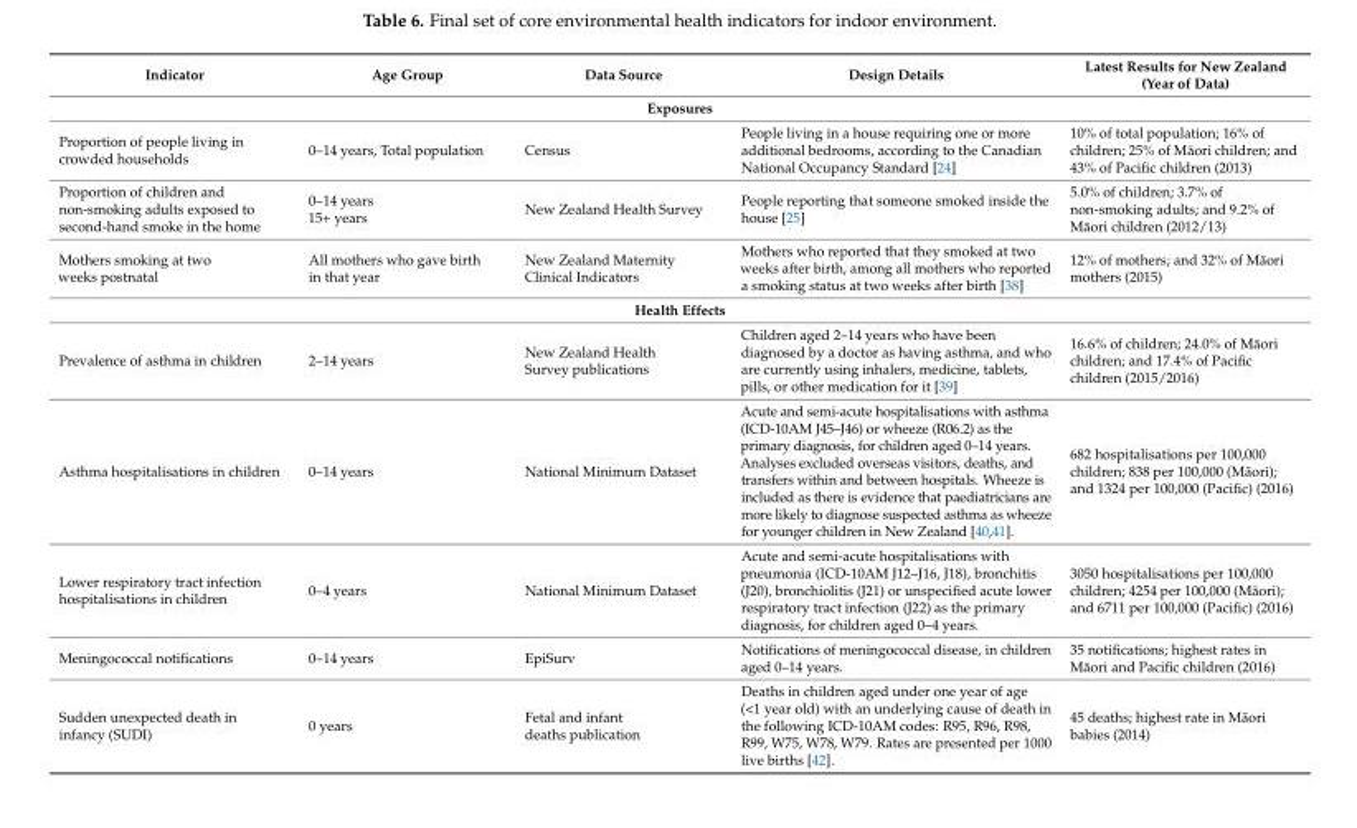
<table><thead><tr><td>Indicator</td><td>Age Group</td><td>Data Source</td><td>Design Details</td><td>Latest Results for New Zealand (Year of Data)</td></tr></thead><tbody><tr><td colspan="5">Exposures</td></tr><tr><td>Proportion of people living in crowded households</td><td>0–14 years, Total population</td><td>Census</td><td>People living in a house requiring one or more additional bedrooms, according to the Canadian National Occupancy Standard [24]</td><td>10% of total population; 16% of children; 25% of M¯aori children; and 43% of Pacific children (2013)</td></tr><tr><td>Proportion of children and non-smoking adults exposed to second-hand smoke in the home</td><td>0–14 years 15+ years</td><td>New Zealand Health Survey</td><td>People reporting that someone smoked inside the house [25]</td><td>5.0% of children; 3.7% of non-smoking adults; and 9.2% of M¯aori children (2012/13)</td></tr><tr><td>Mothers smoking at two weeks postnatal</td><td>All mothers who gave birth in that year</td><td>New Zealand Maternity Clinical Indicators</td><td>Mothers who reported that they smoked at two weeks after birth, among all mothers who reported a smoking status at two weeks after birth [38]</td><td>12% of mothers; and 32% of M¯aori mothers (2015)</td></tr><tr><td colspan="5">Health Effects</td></tr><tr><td>Prevalence of asthma in children</td><td>2–14 years</td><td>New Zealand Health Survey publications</td><td>Children aged 2–14 years who have been diagnosed by a doctor as having asthma, and who are currently using inhalers, medicine, tablets, pills, or other medication for it [39]</td><td>16.6% of children; 24.0% of M¯aori children; and 17.4% of Pacific children (2015/2016)</td></tr><tr><td>Asthma hospitalisations in children</td><td>0–14 years</td><td>National Minimum Dataset</td><td>Acute and semi-acute hospitalisations with asthma (ICD-10AM J45–J46) or wheeze (R06.2) as the primary diagnosis, for children aged 0–14 years. Analyses excluded overseas visitors, deaths, and transfers within and between hospitals. Wheeze is included as there is evidence that paediatricians are more likely to diagnose suspected asthma as wheeze for younger children in New Zealand [40,41].</td><td>682 hospitalisations per 100,000 children; 838 per 100,000 (M¯aori); and 1324 per 100,000 (Pacific) (2016)</td></tr><tr><td>Lower respiratory tract infection hospitalisations in children</td><td>0–4 years</td><td>National Minimum Dataset</td><td>Acute and semi-acute hospitalisations with pneumonia (ICD-10AM J12–J16, J18), bronchitis (J20), bronchiolitis (J21) or unspecified acute lower respiratory tract infection (J22) as the primary diagnosis, for children aged 0–4 years.</td><td>3050 hospitalisations per 100,000 children; 4254 per 100,000 (M¯aori); and 6711 per 100,000 (Pacific) (2016)</td></tr><tr><td>Meningococcal notifications</td><td>0–14 years</td><td>EpiSurv</td><td>Notifications of meningococcal disease, in children aged 0–14 years.</td><td>35 notifications; highest rates in M¯aori and Pacific children (2016)</td></tr><tr><td>Sudden unexpected death in infancy (SUDI)</td><td>0 years</td><td>Fetal and infant deaths publication</td><td>Deaths in children aged under one year of age (&lt;1 year old) with an underlying cause of death in the following ICD-10AM codes: R95, R96, R98, R99, W75, W78, W79. Rates are presented per 1000 live births [42].</td><td>45 deaths; highest rate in M¯aori babies (2014)</td></tr></tbody></table>